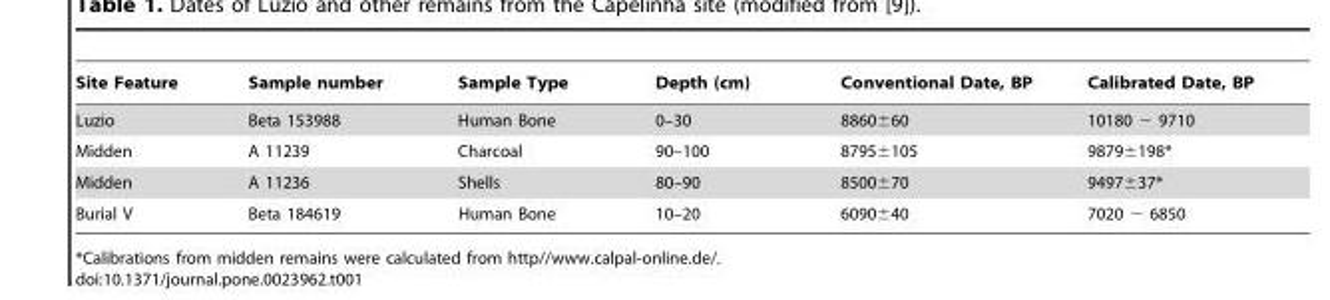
<table><thead><tr><td>Site Feature</td><td>Sample number</td><td>Sample Type</td><td>Depth (cm)</td><td>Conventional Date, BP</td><td>Calibrated Date, BP</td></tr></thead><tbody><tr><td>Luzio</td><td>Beta 153988</td><td>Human Bone</td><td>0–30</td><td>8860±60</td><td>10180 − 9710</td></tr><tr><td>Midden</td><td>A 11239</td><td>Charcoal</td><td>90–100</td><td>8795±105</td><td>9879±198*</td></tr><tr><td>Midden</td><td>A 11236</td><td>Shells</td><td>80–90</td><td>8500±70</td><td>9497±37*</td></tr><tr><td>Burial V</td><td>Beta 184619</td><td>Human Bone</td><td>10–20</td><td>6090±40</td><td>7020 − 6850</td></tr></tbody></table>